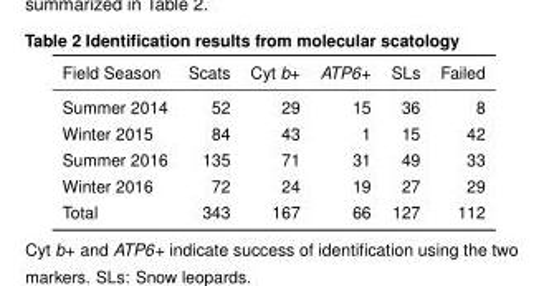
<table><thead><tr><td>Field Season</td><td>Scats</td><td>Cyt b+</td><td>ATP6+</td><td>SLs</td><td>Failed</td></tr></thead><tbody><tr><td>Summer 2014</td><td>52</td><td>29</td><td>15</td><td>36</td><td>8</td></tr><tr><td>Winter 2015</td><td>84</td><td>43</td><td>1</td><td>15</td><td>42</td></tr><tr><td>Summer 2016</td><td>135</td><td>71</td><td>31</td><td>49</td><td>33</td></tr><tr><td>Winter 2016</td><td>72</td><td>24</td><td>19</td><td>27</td><td>29</td></tr><tr><td>Total</td><td>343</td><td>167</td><td>66</td><td>127</td><td>112</td></tr></tbody></table>